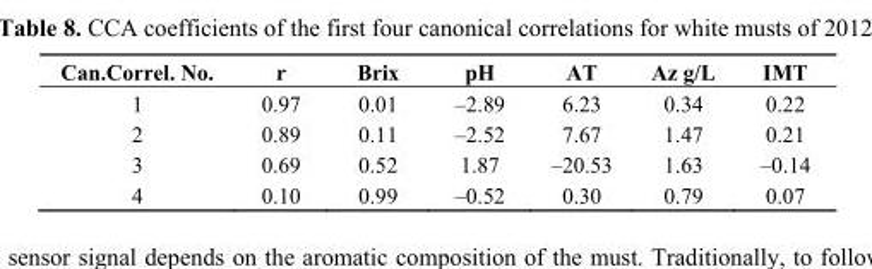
<table><thead><tr><td>Can.Correl. No.</td><td>r</td><td>Brix</td><td>pH</td><td>AT</td><td>Az g/L</td><td>IMT</td></tr></thead><tbody><tr><td>1</td><td>0.97</td><td>0.01</td><td>‒2.89</td><td>6.23</td><td>0.34</td><td>0.22</td></tr><tr><td>2</td><td>0.89</td><td>0.11</td><td>‒2.52</td><td>7.67</td><td>1.47</td><td>0.21</td></tr><tr><td>3</td><td>0.69</td><td>0.52</td><td>1.87</td><td>‒20.53</td><td>1.63</td><td>‒0.14</td></tr><tr><td>4</td><td>0.10</td><td>0.99</td><td>‒0.52</td><td>0.30</td><td>0.79</td><td>0.07</td></tr></tbody></table>